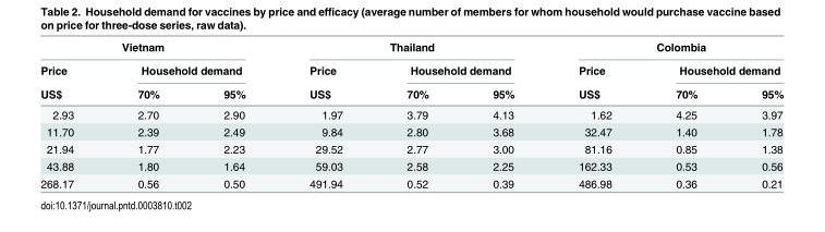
<table><thead><tr><td colspan="3">Vietnam</td><td colspan="3">Thailand</td><td colspan="3">Colombia</td></tr><tr><td rowspan="2">Price US$</td><td colspan="2">Household demand</td><td rowspan="2">Price US$</td><td colspan="2">Household demand</td><td rowspan="2">Price US$</td><td colspan="2">Household demand</td></tr><tr><td>70%</td><td>95%</td><td>70%</td><td>95%</td><td>70%</td><td>95%</td></tr></thead><tbody><tr><td>2.93</td><td>2.70</td><td>2.90</td><td>1.97</td><td>3.79</td><td>4.13</td><td>1.62</td><td>4.25</td><td>3.97</td></tr><tr><td>11.70</td><td>2.39</td><td>2.49</td><td>9.84</td><td>2.80</td><td>3.68</td><td>32.47</td><td>1.40</td><td>1.78</td></tr><tr><td>21.94</td><td>1.77</td><td>2.23</td><td>29.52</td><td>2.77</td><td>3.00</td><td>81.16</td><td>0.85</td><td>1.38</td></tr><tr><td>43.88</td><td>1.80</td><td>1.64</td><td>59.03</td><td>2.58</td><td>2.25</td><td>162.33</td><td>0.53</td><td>0.56</td></tr><tr><td>268.17</td><td>0.56</td><td>0.50</td><td>491.94</td><td>0.52</td><td>0.39</td><td>486.98</td><td>0.36</td><td>0.21</td></tr></tbody></table>